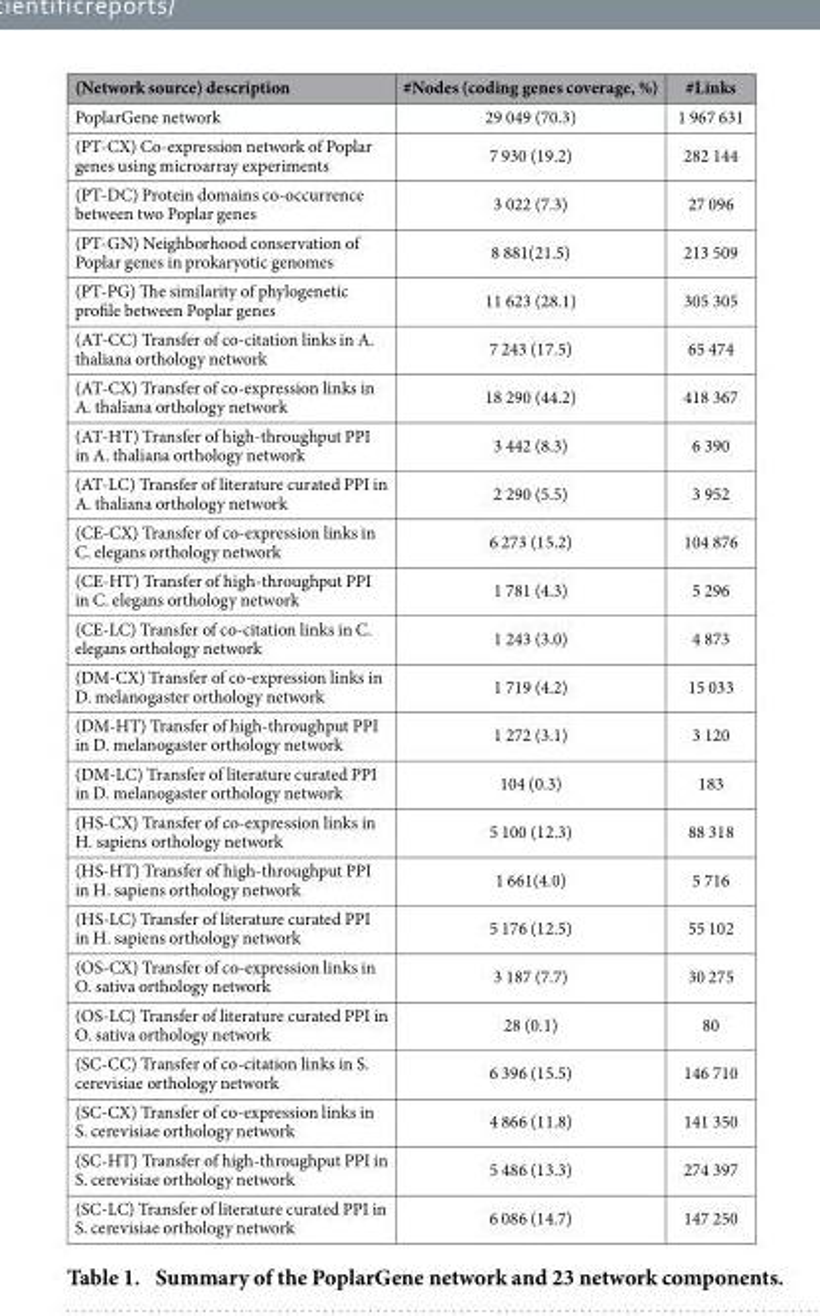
<table><thead><tr><td>(Network source) description</td><td>#Nodes (coding genes coverage, %)</td><td>#Links</td></tr></thead><tbody><tr><td>PoplarGene network</td><td>29 049 (70.3)</td><td>1 967 631</td></tr><tr><td>(PT-CX) Co-expression network of Poplar genes using microarray experiments</td><td>7 930 (19.2)</td><td>282 144</td></tr><tr><td>(PT-DC) Protein domains co-occurrence between two Poplar genes</td><td>3 022 (7.3)</td><td>27 096</td></tr><tr><td>(PT-GN) Neighborhood conservation of Poplar genes in prokaryotic genomes</td><td>8 881(21.5)</td><td>213 509</td></tr><tr><td>(PT-PG) The similarity of phylogenetic profile between Poplar genes</td><td>11 623 (28.1)</td><td>305 305</td></tr><tr><td>(AT-CC) Transfer of co-citation links in A. thaliana orthology network</td><td>7 243 (17.5)</td><td>65 474</td></tr><tr><td>(AT-CX) Transfer of co-expression links in A. thaliana orthology network</td><td>18 290 (44.2)</td><td>418 367</td></tr><tr><td>(AT-HT) Transfer of high-throughput PPI in A. thaliana orthology network</td><td>3 442 (8.3)</td><td>6 390</td></tr><tr><td>(AT-LC) Transfer of literature curated PPI in A. thaliana orthology network</td><td>2 290 (5.5)</td><td>3 952</td></tr><tr><td>(CE-CX) Transfer of co-expression links in C. elegans orthology network</td><td>6 273 (15.2)</td><td>104 876</td></tr><tr><td>(CE-HT) Transfer of high-throughput PPI in C. elegans orthology network</td><td>1 781 (4.3)</td><td>5 296</td></tr><tr><td>(CE-LC) Transfer of co-citation links in C. elegans orthology network</td><td>1 243 (3.0)</td><td>4 873</td></tr><tr><td>(DM-CX) Transfer of co-expression links in D. melanogaster orthology network</td><td>1 719 (4.2)</td><td>15 033</td></tr><tr><td>(DM-HT) Transfer of high-throughput PPI in D. melanogaster orthology network</td><td>1 272 (3.1)</td><td>3 120</td></tr><tr><td>(DM-LC) Transfer of literature curated PPI in D. melanogaster orthology network</td><td>104 (0.3)</td><td>183</td></tr><tr><td>(HS-CX) Transfer of co-expression links in H. sapiens orthology network</td><td>5 100 (12.3)</td><td>88 318</td></tr><tr><td>(HS-HT) Transfer of high-throughput PPI in H. sapiens orthology network</td><td>1 661(4.0)</td><td>5 716</td></tr><tr><td>(HS-LC) Transfer of literature curated PPI in H. sapiens orthology network</td><td>5 176 (12.5)</td><td>55 102</td></tr><tr><td>(OS-CX) Transfer of co-expression links in O. sativa orthology network</td><td>3 187 (7.7)</td><td>30 275</td></tr><tr><td>(OS-LC) Transfer of literature curated PPI in O. sativa orthology network</td><td>28 (0.1)</td><td>80</td></tr><tr><td>(SC-CC) Transfer of co-citation links in S. cerevisiae orthology network</td><td>6 396 (15.5)</td><td>146 710</td></tr><tr><td>(SC-CX) Transfer of co-expression links in S. cerevisiae orthology network</td><td>4 866 (11.8)</td><td>141 350</td></tr><tr><td>(SC-HT) Transfer of high-throughput PPI in S. cerevisiae orthology network</td><td>5 486 (13.3)</td><td>274 397</td></tr><tr><td>(SC-LC) Transfer of literature curated PPI in S. cerevisiae orthology network</td><td>6 086 (14.7)</td><td>147 250</td></tr></tbody></table>